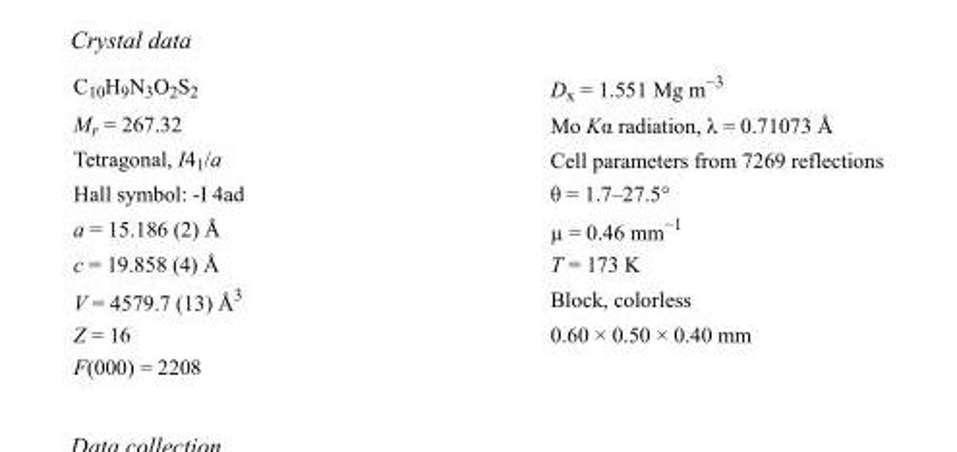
<table><tbody><tr><td>C<sub>10</sub>H<sub>9</sub>N<sub>3</sub>O<sub>2</sub>S<sub>2</sub></td><td>D<sub>x</sub> = 1.551 Mg m<sup>−3</sup></td></tr><tr><td>M<sub>r</sub> = 267.32</td><td>Mo Kα radiation, λ = 0.71073 Å</td></tr><tr><td>Tetragonal, I4<sub>1</sub>/a</td><td>Cell parameters from 7269 reflections</td></tr><tr><td>Hall symbol: -I 4ad</td><td>θ = 1.7–27.5°</td></tr><tr><td>a = 15.186 (2) Å</td><td>µ = 0.46 mm<sup>−1</sup></td></tr><tr><td>c = 19.858 (4) Å</td><td>T = 173 K</td></tr><tr><td>V = 4579.7 (13) Å<sup>3</sup></td><td>Block, colorless</td></tr><tr><td>Z = 16</td><td>0.60 × 0.50 × 0.40 mm</td></tr><tr><td>F(000) = 2208</td><td></td></tr></tbody></table>